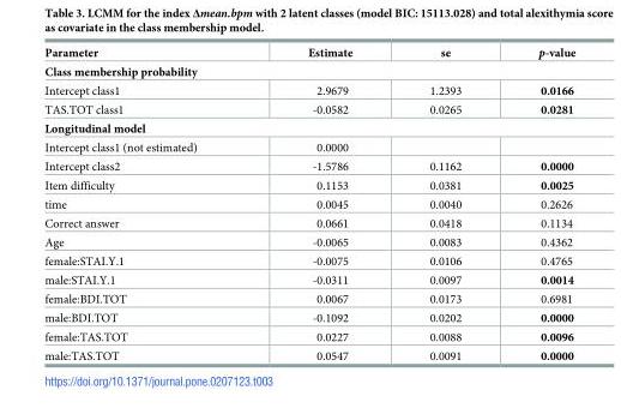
<table><thead><tr><td>Parameter</td><td>Estimate</td><td>se</td><td>p-value</td></tr></thead><tbody><tr><td colspan="4">Class membership probability</td></tr><tr><td>Intercept class1</td><td>2.9679</td><td>1.2393</td><td>0.0166</td></tr><tr><td>TAS.TOT class1</td><td>-0.0582</td><td>0.0265</td><td>0.0281</td></tr><tr><td colspan="4">Longitudinal model</td></tr><tr><td>Intercept class1 (not estimated)</td><td>0.0000</td><td></td><td></td></tr><tr><td>Intercept class2</td><td>-1.5786</td><td>0.1162</td><td>0.0000</td></tr><tr><td>Item difficulty</td><td>0.1153</td><td>0.0381</td><td>0.0025</td></tr><tr><td>time</td><td>0.0045</td><td>0.0040</td><td>0.2626</td></tr><tr><td>Correct answer</td><td>0.0661</td><td>0.0418</td><td>0.1134</td></tr><tr><td>Age</td><td>-0.0065</td><td>0.0083</td><td>0.4362</td></tr><tr><td>female:STAI.Y.1</td><td>-0.0075</td><td>0.0106</td><td>0.4765</td></tr><tr><td>male:STAI.Y.1</td><td>-0.0311</td><td>0.0097</td><td>0.0014</td></tr><tr><td>female:BDI.TOT</td><td>0.0067</td><td>0.0173</td><td>0.6981</td></tr><tr><td>male:BDI.TOT</td><td>-0.1092</td><td>0.0202</td><td>0.0000</td></tr><tr><td>female:TAS.TOT</td><td>0.0227</td><td>0.0088</td><td>0.0096</td></tr><tr><td>male:TAS.TOT</td><td>0.0547</td><td>0.0091</td><td>0.0000</td></tr></tbody></table>